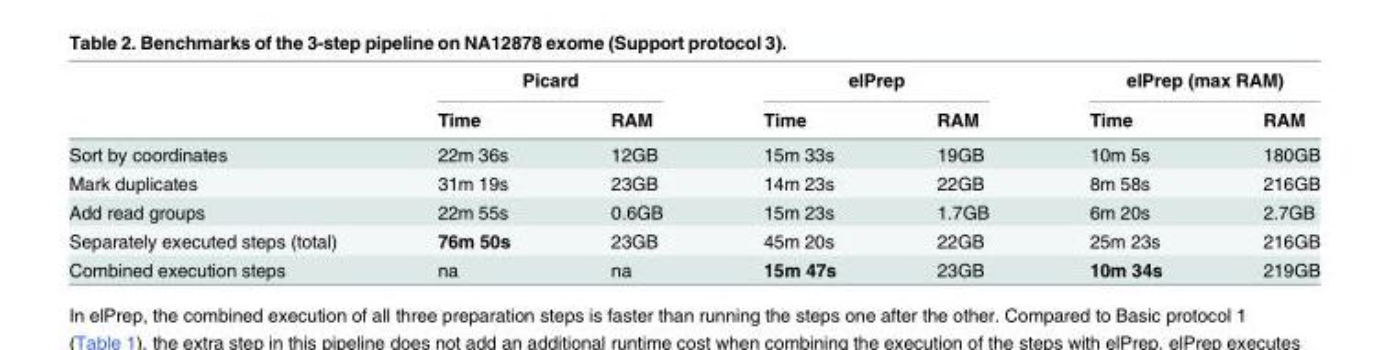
<table><thead><tr><td rowspan="2"></td><td colspan="2">Picard</td><td colspan="2">elPrep</td><td colspan="2">elPrep (max RAM)</td></tr><tr><td>Time</td><td>RAM</td><td>Time</td><td>RAM</td><td>Time</td><td>RAM</td></tr></thead><tbody><tr><td>Sort by coordinates</td><td>22m 36s</td><td>12GB</td><td>15m 33s</td><td>19GB</td><td>10m 5s</td><td>180GB</td></tr><tr><td>Mark duplicates</td><td>31m 19s</td><td>23GB</td><td>14m 23s</td><td>22GB</td><td>8m 58s</td><td>216GB</td></tr><tr><td>Add read groups</td><td>22m 55s</td><td>0.6GB</td><td>15m 23s</td><td>1.7GB</td><td>6m 20s</td><td>2.7GB</td></tr><tr><td>Separately executed steps (total)</td><td>76m 50s</td><td>23GB</td><td>45m 20s</td><td>22GB</td><td>25m 23s</td><td>216GB</td></tr><tr><td>Combined execution steps</td><td>na</td><td>na</td><td>15m 47s</td><td>23GB</td><td>10m 34s</td><td>219GB</td></tr></tbody></table>